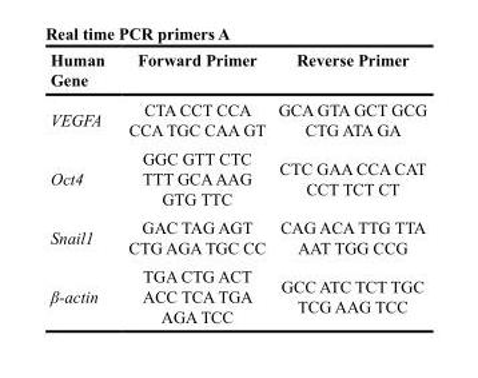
<table><thead><tr><td>Human Gene</td><td>Forward Primer</td><td>Reverse Primer</td></tr></thead><tbody><tr><td>VEGFA</td><td>CTA CCT CCA CCA TGC CAA GT</td><td>GCA GTA GCT GCG CTG ATA GA</td></tr><tr><td>Oct4</td><td>GGC GTT CTC TTT GCA AAG GTG TTC</td><td>CTC GAA CCA CAT CCT TCT CT</td></tr><tr><td>Snail1</td><td>GAC TAG AGT CTG AGA TGC CC</td><td>CAG ACA TTG TTA AAT TGG CCG</td></tr><tr><td>β-actin</td><td>TGA CTG ACT ACC TCA TGA AGA TCC</td><td>GCC ATC TCT TGC TCG AAG TCC</td></tr></tbody></table>